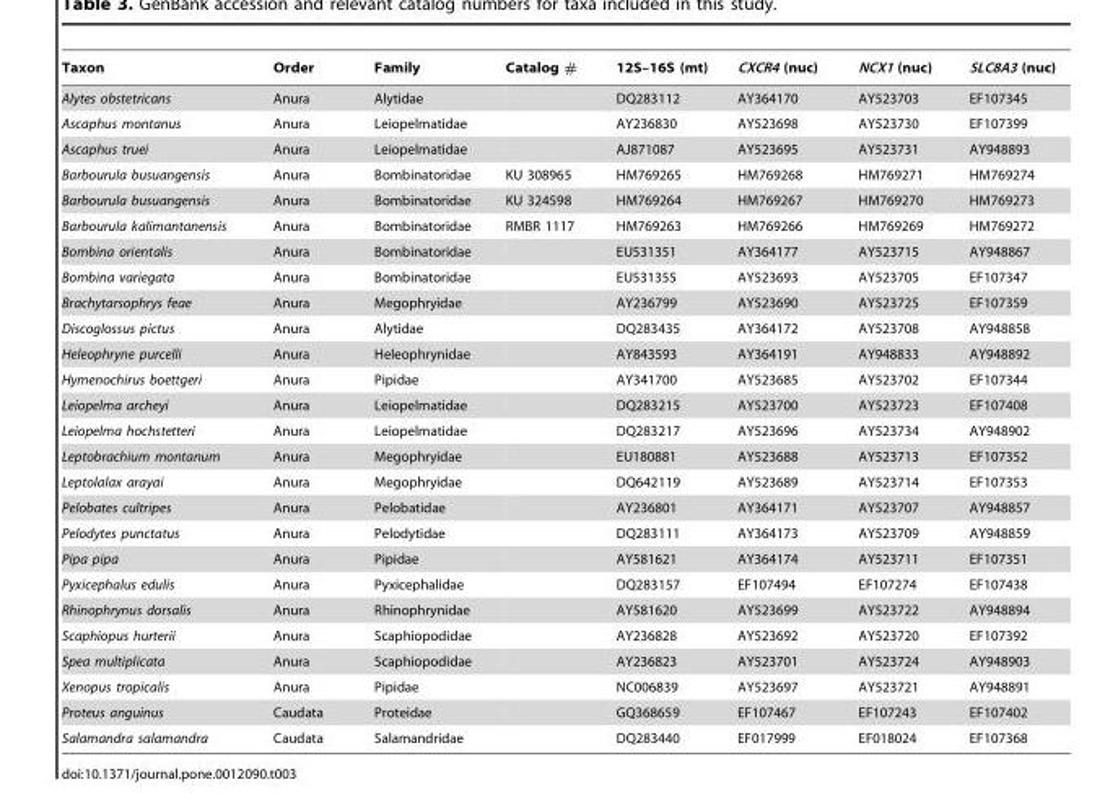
<table><thead><tr><td>Taxon</td><td>Order</td><td>Family</td><td>Catalog #</td><td>12S–16S (mt)</td><td>CXCR4 (nuc)</td><td>NCX1 (nuc)</td><td>SLC8A3 (nuc)</td></tr></thead><tbody><tr><td>Alytes obstetricans</td><td>Anura</td><td>Alytidae</td><td></td><td>DQ283112</td><td>AY364170</td><td>AY523703</td><td>EF107345</td></tr><tr><td>Ascaphus montanus</td><td>Anura</td><td>Leiopelmatidae</td><td></td><td>AY236830</td><td>AY523698</td><td>AY523730</td><td>EF107399</td></tr><tr><td>Ascaphus truei</td><td>Anura</td><td>Leiopelmatidae</td><td></td><td>AJ871087</td><td>AY523695</td><td>AY523731</td><td>AY948893</td></tr><tr><td>Barbourula busuangensis</td><td>Anura</td><td>Bombinatoridae</td><td>KU 308965</td><td>HM769265</td><td>HM769268</td><td>HM769271</td><td>HM769274</td></tr><tr><td>Barbourula busuangensis</td><td>Anura</td><td>Bombinatoridae</td><td>KU 324598</td><td>HM769264</td><td>HM769267</td><td>HM769270</td><td>HM769273</td></tr><tr><td>Barbourula kalimantanensis</td><td>Anura</td><td>Bombinatoridae</td><td>RMBR 1117</td><td>HM769263</td><td>HM769266</td><td>HM769269</td><td>HM769272</td></tr><tr><td>Bombina orientalis</td><td>Anura</td><td>Bombinatoridae</td><td></td><td>EU531351</td><td>AY364177</td><td>AY523715</td><td>AY948867</td></tr><tr><td>Bombina variegata</td><td>Anura</td><td>Bombinatoridae</td><td></td><td>EU531355</td><td>AY523693</td><td>AY523705</td><td>EF107347</td></tr><tr><td>Brachytarsophrys feae</td><td>Anura</td><td>Megophryidae</td><td></td><td>AY236799</td><td>AY523690</td><td>AY523725</td><td>EF107359</td></tr><tr><td>Discoglossus pictus</td><td>Anura</td><td>Alytidae</td><td></td><td>DQ283435</td><td>AY364172</td><td>AY523708</td><td>AY948858</td></tr><tr><td>Heleophryne purcelli</td><td>Anura</td><td>Heleophrynidae</td><td></td><td>AY843593</td><td>AY364191</td><td>AY948833</td><td>AY948892</td></tr><tr><td>Hymenochirus boettgeri</td><td>Anura</td><td>Pipidae</td><td></td><td>AY341700</td><td>AY523685</td><td>AY523702</td><td>EF107344</td></tr><tr><td>Leiopelma archeyi</td><td>Anura</td><td>Leiopelmatidae</td><td></td><td>DQ283215</td><td>AY523700</td><td>AY523723</td><td>EF107408</td></tr><tr><td>Leiopelma hochstetteri</td><td>Anura</td><td>Leiopelmatidae</td><td></td><td>DQ283217</td><td>AY523696</td><td>AY523734</td><td>AY948902</td></tr><tr><td>Leptobrachium montanum</td><td>Anura</td><td>Megophryidae</td><td></td><td>EU180881</td><td>AY523688</td><td>AY523713</td><td>EF107352</td></tr><tr><td>Leptolalax arayai</td><td>Anura</td><td>Megophryidae</td><td></td><td>DQ642119</td><td>AY523689</td><td>AY523714</td><td>EF107353</td></tr><tr><td>Pelobates cultripes</td><td>Anura</td><td>Pelobatidae</td><td></td><td>AY236801</td><td>AY364171</td><td>AY523707</td><td>AY948857</td></tr><tr><td>Pelodytes punctatus</td><td>Anura</td><td>Pelodytidae</td><td></td><td>DQ283111</td><td>AY364173</td><td>AY523709</td><td>AY948859</td></tr><tr><td>Pipa pipa</td><td>Anura</td><td>Pipidae</td><td></td><td>AY581621</td><td>AY364174</td><td>AY523711</td><td>EF107351</td></tr><tr><td>Pyxicephalus edulis</td><td>Anura</td><td>Pyxicephalidae</td><td></td><td>DQ283157</td><td>EF107494</td><td>EF107274</td><td>EF107438</td></tr><tr><td>Rhinophrynus dorsalis</td><td>Anura</td><td>Rhinophrynidae</td><td></td><td>AY581620</td><td>AY523699</td><td>AY523722</td><td>AY948894</td></tr><tr><td>Scaphiopus hurterii</td><td>Anura</td><td>Scaphiopodidae</td><td></td><td>AY236828</td><td>AY523692</td><td>AY523720</td><td>EF107392</td></tr><tr><td>Spea multiplicata</td><td>Anura</td><td>Scaphiopodidae</td><td></td><td>AY236823</td><td>AY523701</td><td>AY523724</td><td>AY948903</td></tr><tr><td>Xenopus tropicalis</td><td>Anura</td><td>Pipidae</td><td></td><td>NC006839</td><td>AY523697</td><td>AY523721</td><td>AY948891</td></tr><tr><td>Proteus anguinus</td><td>Caudata</td><td>Proteidae</td><td></td><td>GQ368659</td><td>EF107467</td><td>EF107243</td><td>EF107402</td></tr><tr><td>Salamandra salamandra</td><td>Caudata</td><td>Salamandridae</td><td></td><td>DQ283440</td><td>EF017999</td><td>EF018024</td><td>EF107368</td></tr></tbody></table>